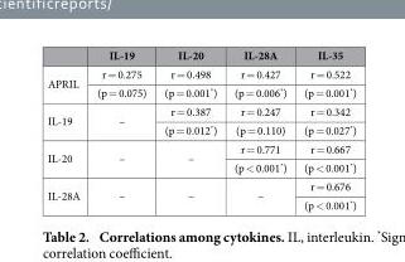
<table><thead><tr><td></td><td>IL-19</td><td>IL-20</td><td>IL-28A</td><td>IL-35</td></tr></thead><tbody><tr><td rowspan="2">APRIL</td><td>r = 0.275</td><td>r = 0.498</td><td>r = 0.427</td><td>r = 0.522</td></tr><tr><td>(p = 0.075)</td><td>(p = 0.001*)</td><td>(p = 0.006*)</td><td>(p = 0.001*)</td></tr><tr><td rowspan="2">IL-19</td><td rowspan="2">–</td><td>r = 0.387</td><td>r = 0.247</td><td>r = 0.342</td></tr><tr><td>(p = 0.012*)</td><td>(p = 0.110)</td><td>(p = 0.027*)</td></tr><tr><td rowspan="2">IL-20</td><td rowspan="2">–</td><td rowspan="2">–</td><td>r = 0.771</td><td>r = 0.667</td></tr><tr><td>(p &lt; 0.001*)</td><td>(p &lt; 0.001*)</td></tr><tr><td rowspan="2">IL-28A</td><td rowspan="2">–</td><td rowspan="2">–</td><td rowspan="2">–</td><td>r = 0.676</td></tr><tr><td>(p &lt; 0.001*)</td></tr></tbody></table>